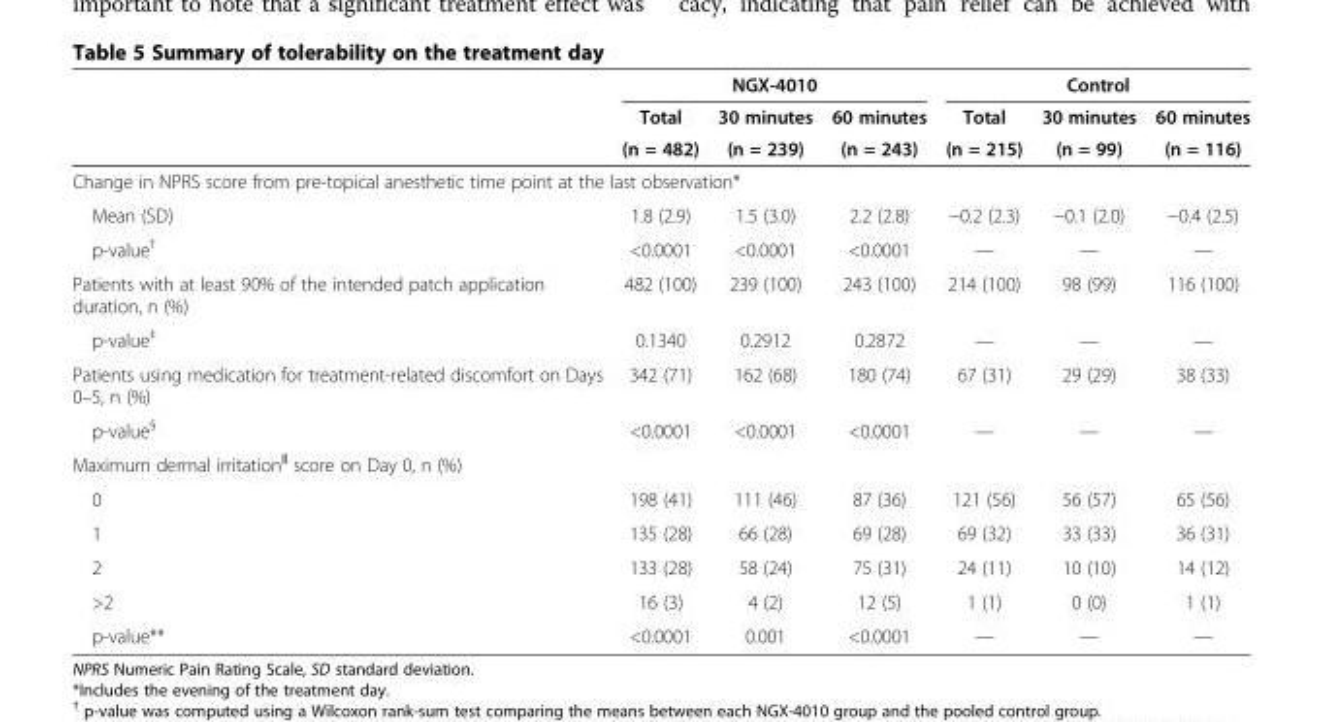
<table><thead><tr><td rowspan="3"></td><td colspan="3">NGX-4010</td><td colspan="3">Control</td></tr><tr><td rowspan="2">Total (n = 482)</td><td rowspan="2">30 minutes (n = 239)</td><td rowspan="2">60 minutes (n = 243)</td><td rowspan="2">Total (n = 215)</td><td rowspan="2">30 minutes (n = 99)</td><td rowspan="2">60 minutes (n = 116)</td></tr><tr></tr></thead><tbody><tr><td colspan="7">Change in NPRS score from pre-topical anesthetic time point at the last observation*</td></tr><tr><td>Mean (SD)</td><td>1.8 (2.9)</td><td>1.5 (3.0)</td><td>2.2 (2.8)</td><td>−0.2 (2.3)</td><td>−0.1 (2.0)</td><td>−0.4 (2.5)</td></tr><tr><td>p-value<sup>†</sup></td><td>&lt;0.0001</td><td>&lt;0.0001</td><td>&lt;0.0001</td><td>—</td><td>—</td><td>—</td></tr><tr><td>Patients with at least 90% of the intended patch application duration, n (%)</td><td>482 (100)</td><td>239 (100)</td><td>243 (100)</td><td>214 (100)</td><td>98 (99)</td><td>116 (100)</td></tr><tr><td>p-value<sup>‡</sup></td><td>0.1340</td><td>0.2912</td><td>0.2872</td><td>—</td><td>—</td><td>—</td></tr><tr><td>Patients using medication for treatment-related discomfort on Days 0–5, n (%)</td><td>342 (71)</td><td>162 (68)</td><td>180 (74)</td><td>67 (31)</td><td>29 (29)</td><td>38 (33)</td></tr><tr><td>p-value<sup>§</sup></td><td>&lt;0.0001</td><td>&lt;0.0001</td><td>&lt;0.0001</td><td>—</td><td>—</td><td>—</td></tr><tr><td colspan="7">Maximum dermal irritation<sup>‖</sup> score on Day 0, n (%)</td></tr><tr><td>0</td><td>198 (41)</td><td>111 (46)</td><td>87 (36)</td><td>121 (56)</td><td>56 (57)</td><td>65 (56)</td></tr><tr><td>1</td><td>135 (28)</td><td>66 (28)</td><td>69 (28)</td><td>69 (32)</td><td>33 (33)</td><td>36 (31)</td></tr><tr><td>2</td><td>133 (28)</td><td>58 (24)</td><td>75 (31)</td><td>24 (11)</td><td>10 (10)</td><td>14 (12)</td></tr><tr><td>&gt;2</td><td>16 (3)</td><td>4 (2)</td><td>12 (5)</td><td>1 (1)</td><td>0 (0)</td><td>1 (1)</td></tr><tr><td>p-value**</td><td>&lt;0.0001</td><td>0.001</td><td>&lt;0.0001</td><td>—</td><td>—</td><td>—</td></tr></tbody></table>